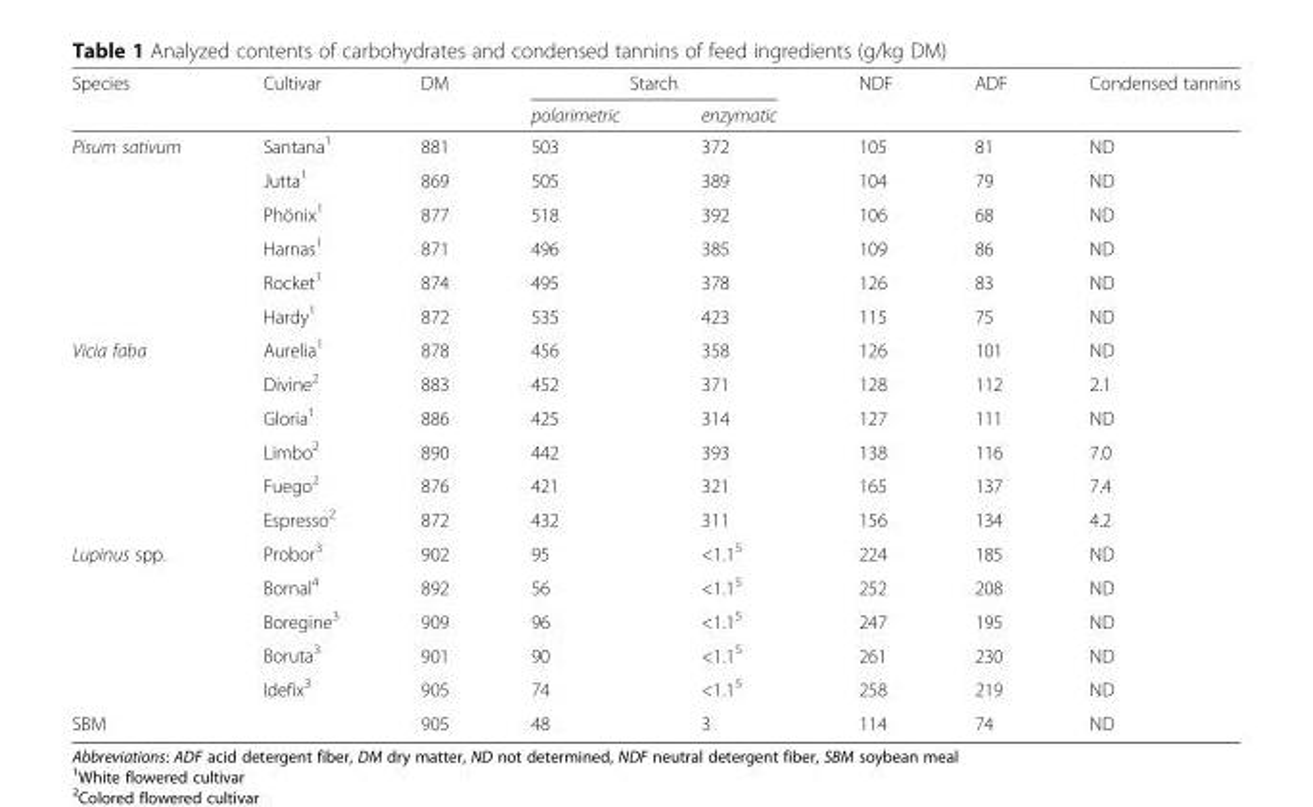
<table><thead><tr><td rowspan="2">Species</td><td rowspan="2">Cultivar</td><td rowspan="2">DM</td><td colspan="2">Starch</td><td rowspan="2">NDF</td><td rowspan="2">ADF</td><td rowspan="2">Condensed tannins</td></tr><tr><td>polarimetric</td><td>enzymatic</td></tr></thead><tbody><tr><td rowspan="6">Pisum sativum</td><td>Santana<sup>1</sup></td><td>881</td><td>503</td><td>372</td><td>105</td><td>81</td><td>ND</td></tr><tr><td>Jutta<sup>1</sup></td><td>869</td><td>505</td><td>389</td><td>104</td><td>79</td><td>ND</td></tr><tr><td>Phönix<sup>1</sup></td><td>877</td><td>518</td><td>392</td><td>106</td><td>68</td><td>ND</td></tr><tr><td>Harnas<sup>1</sup></td><td>871</td><td>496</td><td>385</td><td>109</td><td>86</td><td>ND</td></tr><tr><td>Rocket<sup>1</sup></td><td>874</td><td>495</td><td>378</td><td>126</td><td>83</td><td>ND</td></tr><tr><td>Hardy<sup>1</sup></td><td>872</td><td>535</td><td>423</td><td>115</td><td>75</td><td>ND</td></tr><tr><td rowspan="6">Vicia faba</td><td>Aurelia<sup>1</sup></td><td>878</td><td>456</td><td>358</td><td>126</td><td>101</td><td>ND</td></tr><tr><td>Divine<sup>2</sup></td><td>883</td><td>452</td><td>371</td><td>128</td><td>112</td><td>2.1</td></tr><tr><td>Gloria<sup>1</sup></td><td>886</td><td>425</td><td>314</td><td>127</td><td>111</td><td>ND</td></tr><tr><td>Limbo<sup>2</sup></td><td>890</td><td>442</td><td>393</td><td>138</td><td>116</td><td>7.0</td></tr><tr><td>Fuego<sup>2</sup></td><td>876</td><td>421</td><td>321</td><td>165</td><td>137</td><td>7.4</td></tr><tr><td>Espresso<sup>2</sup></td><td>872</td><td>432</td><td>311</td><td>156</td><td>134</td><td>4.2</td></tr><tr><td rowspan="5">Lupinus spp.</td><td>Probor<sup>3</sup></td><td>902</td><td>95</td><td>&lt;1.1<sup>5</sup></td><td>224</td><td>185</td><td>ND</td></tr><tr><td>Bornal<sup>4</sup></td><td>892</td><td>56</td><td>&lt;1.1<sup>5</sup></td><td>252</td><td>208</td><td>ND</td></tr><tr><td>Boregine<sup>3</sup></td><td>909</td><td>96</td><td>&lt;1.1<sup>5</sup></td><td>247</td><td>195</td><td>ND</td></tr><tr><td>Boruta<sup>3</sup></td><td>901</td><td>90</td><td>&lt;1.1<sup>5</sup></td><td>261</td><td>230</td><td>ND</td></tr><tr><td>Idefix<sup>3</sup></td><td>905</td><td>74</td><td>&lt;1.1<sup>5</sup></td><td>258</td><td>219</td><td>ND</td></tr><tr><td>SBM</td><td></td><td>905</td><td>48</td><td>3</td><td>114</td><td>74</td><td>ND</td></tr></tbody></table>